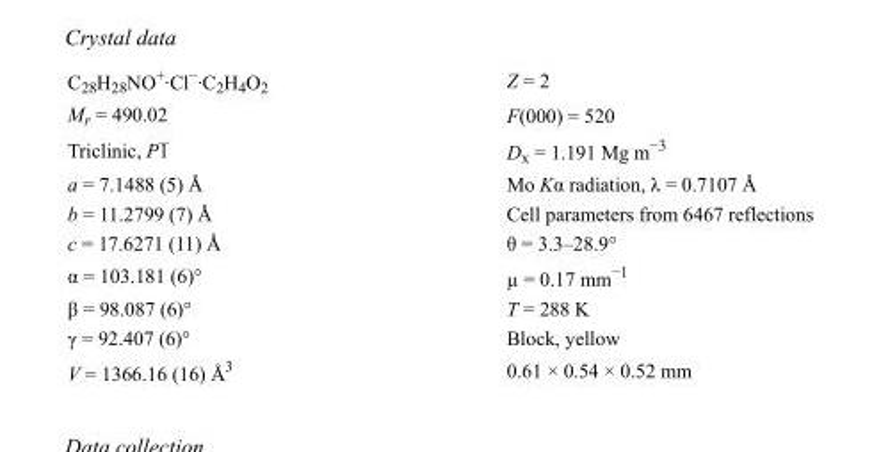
<table><tbody><tr><td>C<sub>28</sub>H<sub>28</sub>NO<sup>+</sup>·Cl<sup>−</sup>·C<sub>2</sub>H<sub>4</sub>O<sub>2</sub></td><td>Z = 2</td></tr><tr><td>M<sub>r</sub> = 490.02</td><td>F(000) = 520</td></tr><tr><td>Triclinic, P1</td><td>D<sub>x</sub> = 1.191 Mg m<sup>−3</sup></td></tr><tr><td>a = 7.1488 (5) Å</td><td>Mo Kα radiation, λ = 0.7107 Å</td></tr><tr><td>b = 11.2799 (7) Å</td><td>Cell parameters from 6467 reflections</td></tr><tr><td>c = 17.6271 (11) Å</td><td>θ = 3.3–28.9°</td></tr><tr><td>α = 103.181 (6)°</td><td>µ = 0.17 mm<sup>−1</sup></td></tr><tr><td>β = 98.087 (6)°</td><td>T = 288 K</td></tr><tr><td>γ = 92.407 (6)°</td><td>Block, yellow</td></tr><tr><td>V = 1366.16 (16) Å<sup>3</sup></td><td>0.61 × 0.54 × 0.52 mm</td></tr></tbody></table>